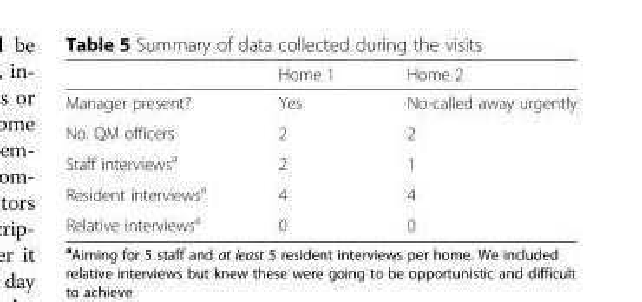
<table><thead><tr><td></td><td>Home 1</td><td>Home 2</td></tr></thead><tbody><tr><td>Manager present?</td><td>Yes</td><td>No-called away urgently</td></tr><tr><td>No. QM officers</td><td>2</td><td>2</td></tr><tr><td>Staff interviews<sup>a</sup></td><td>2</td><td>1</td></tr><tr><td>Resident interviews<sup>a</sup></td><td>4</td><td>4</td></tr><tr><td>Relative interviews<sup>a</sup></td><td>0</td><td>0</td></tr></tbody></table>